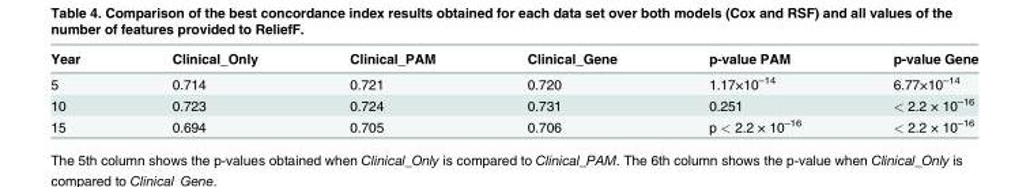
<table><thead><tr><td>Year</td><td>Clinical_Only</td><td>Clinical_PAM</td><td>Clinical_Gene</td><td>p-value PAM</td><td>p-value Gene</td></tr></thead><tbody><tr><td>5</td><td>0.714</td><td>0.721</td><td>0.720</td><td>1.17×10<sup>–14</sup></td><td>6.77×10<sup>–14</sup></td></tr><tr><td>10</td><td>0.723</td><td>0.724</td><td>0.731</td><td>0.251</td><td>&lt; 2.2 × 10<sup>–16</sup></td></tr><tr><td>15</td><td>0.694</td><td>0.705</td><td>0.706</td><td>p &lt; 2.2 × 10<sup>–16</sup></td><td>&lt; 2.2 × 10<sup>–16</sup></td></tr></tbody></table>